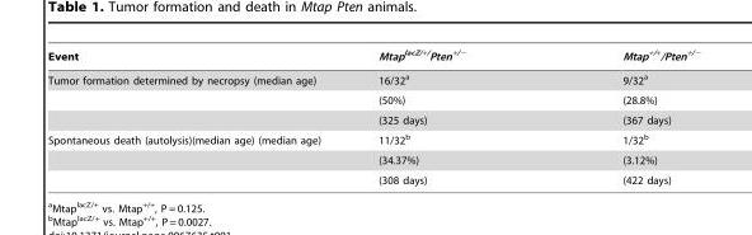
<table><thead><tr><td>Event</td><td>Mtap<sup>lacZ/+/</sup>Pten<sup>+/−</sup></td><td>Mtap<sup>+/+</sup>/Pten<sup>+/−</sup></td></tr></thead><tbody><tr><td rowspan="3">Tumor formation determined by necropsy (median age)</td><td>16/32<sup>a</sup></td><td>9/32<sup>a</sup></td></tr><tr><td>(50%)</td><td>(28.8%)</td></tr><tr><td>(325 days)</td><td>(367 days)</td></tr><tr><td rowspan="3">Spontaneous death (autolysis)(median age) (median age)</td><td>11/32<sup>b</sup></td><td>1/32<sup>b</sup></td></tr><tr><td>(34.37%)</td><td>(3.12%)</td></tr><tr><td>(308 days)</td><td>(422 days)</td></tr></tbody></table>